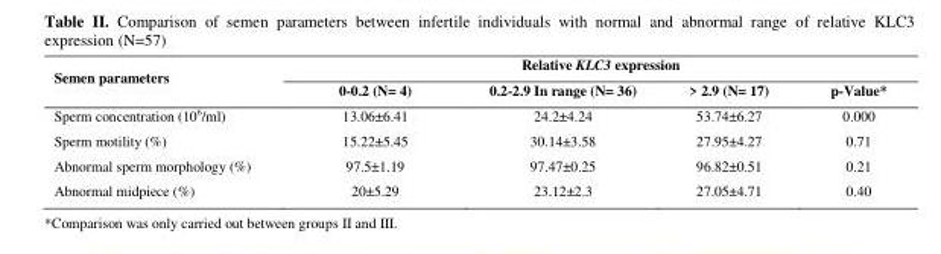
<table><thead><tr><td rowspan="2">Semen parameters</td><td colspan="4">Relative KLC3 expression</td></tr><tr><td>0-0.2 (N= 4)</td><td>0.2-2.9 In range (N= 36)</td><td>&gt; 2.9 (N= 17)</td><td>p-Value*</td></tr></thead><tbody><tr><td>Sperm concentration (10<sup>6</sup>/ml)</td><td>13.06±6.41</td><td>24.2±4.24</td><td>53.74±6.27</td><td>0.000</td></tr><tr><td>Sperm motility (%)</td><td>15.22±5.45</td><td>30.14±3.58</td><td>27.95±4.27</td><td>0.71</td></tr><tr><td>Abnormal sperm morphology (%)</td><td>97.5±1.19</td><td>97.47±0.25</td><td>96.82±0.51</td><td>0.21</td></tr><tr><td>Abnormal midpiece (%)</td><td>20±5.29</td><td>23.12±2.3</td><td>27.05±4.71</td><td>0.40</td></tr></tbody></table>